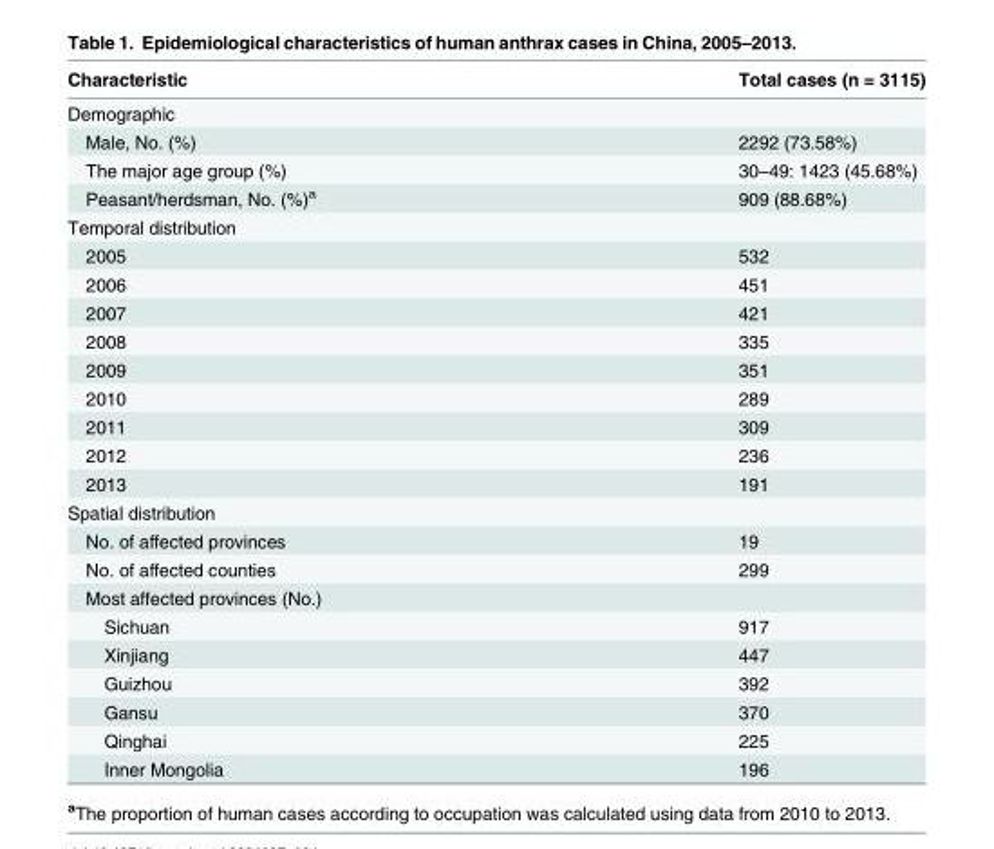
<table><thead><tr><td>Characteristic</td><td>Total cases (n = 3115)</td></tr></thead><tbody><tr><td colspan="2">Demographic</td></tr><tr><td>Male, No. (%)</td><td>2292 (73.58%)</td></tr><tr><td>The major age group (%)</td><td>30–49: 1423 (45.68%)</td></tr><tr><td>Peasant/herdsman, No. (%)<sup>a</sup></td><td>909 (88.68%)</td></tr><tr><td colspan="2">Temporal distribution</td></tr><tr><td>2005</td><td>532</td></tr><tr><td>2006</td><td>451</td></tr><tr><td>2007</td><td>421</td></tr><tr><td>2008</td><td>335</td></tr><tr><td>2009</td><td>351</td></tr><tr><td>2010</td><td>289</td></tr><tr><td>2011</td><td>309</td></tr><tr><td>2012</td><td>236</td></tr><tr><td>2013</td><td>191</td></tr><tr><td colspan="2">Spatial distribution</td></tr><tr><td>No. of affected provinces</td><td>19</td></tr><tr><td>No. of affected counties</td><td>299</td></tr><tr><td colspan="2">Most affected provinces (No.)</td></tr><tr><td>Sichuan</td><td>917</td></tr><tr><td>Xinjiang</td><td>447</td></tr><tr><td>Guizhou</td><td>392</td></tr><tr><td>Gansu</td><td>370</td></tr><tr><td>Qinghai</td><td>225</td></tr><tr><td>Inner Mongolia</td><td>196</td></tr></tbody></table>